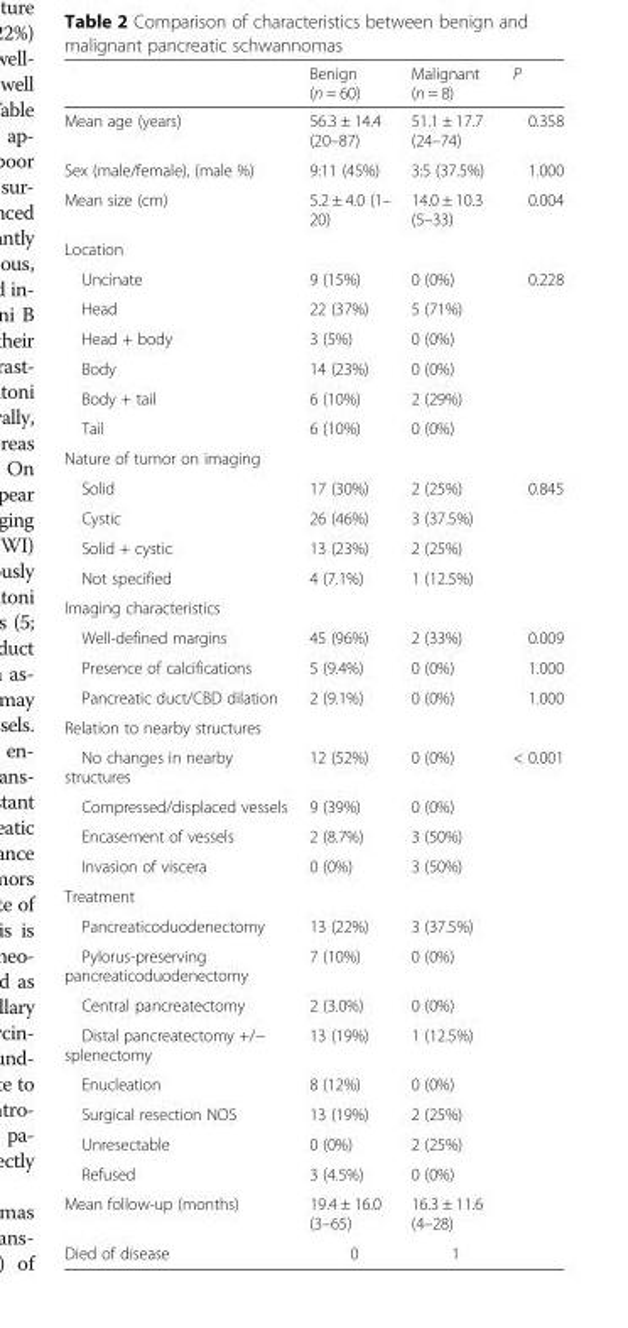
<table><thead><tr><td></td><td>Benign (n = 60)</td><td>Malignant (n = 8)</td><td>P</td></tr></thead><tbody><tr><td>Mean age (years)</td><td>56.3 ± 14.4 (20–87)</td><td>51.1 ± 17.7 (24–74)</td><td>0.358</td></tr><tr><td>Sex (male/female), (male %)</td><td>9:11 (45%)</td><td>3:5 (37.5%)</td><td>1.000</td></tr><tr><td>Mean size (cm)</td><td>5.2 ± 4.0 (1– 20)</td><td>14.0 ± 10.3 (5–33)</td><td>0.004</td></tr><tr><td colspan="4">Location</td></tr><tr><td>Uncinate</td><td>9 (15%)</td><td>0 (0%)</td><td rowspan="6">0.228</td></tr><tr><td>Head</td><td>22 (37%)</td><td>5 (71%)</td></tr><tr><td>Head + body</td><td>3 (5%)</td><td>0 (0%)</td></tr><tr><td>Body</td><td>14 (23%)</td><td>0 (0%)</td></tr><tr><td>Body + tail</td><td>6 (10%)</td><td>2 (29%)</td></tr><tr><td>Tail</td><td>6 (10%)</td><td>0 (0%)</td></tr><tr><td colspan="4">Nature of tumor on imaging</td></tr><tr><td>Solid</td><td>17 (30%)</td><td>2 (25%)</td><td rowspan="4">0.845</td></tr><tr><td>Cystic</td><td>26 (46%)</td><td>3 (37.5%)</td></tr><tr><td>Solid + cystic</td><td>13 (23%)</td><td>2 (25%)</td></tr><tr><td>Not specified</td><td>4 (7.1%)</td><td>1 (12.5%)</td></tr><tr><td colspan="4">Imaging characteristics</td></tr><tr><td>Well-defined margins</td><td>45 (96%)</td><td>2 (33%)</td><td>0.009</td></tr><tr><td>Presence of calcifications</td><td>5 (9.4%)</td><td>0 (0%)</td><td>1.000</td></tr><tr><td>Pancreatic duct/CBD dilation</td><td>2 (9.1%)</td><td>0 (0%)</td><td>1.000</td></tr><tr><td colspan="4">Relation to nearby structures</td></tr><tr><td>No changes in nearby structures</td><td>12 (52%)</td><td>0 (0%)</td><td rowspan="4">&lt; 0.001</td></tr><tr><td>Compressed/displaced vessels</td><td>9 (39%)</td><td>0 (0%)</td></tr><tr><td>Encasement of vessels</td><td>2 (8.7%)</td><td>3 (50%)</td></tr><tr><td>Invasion of viscera</td><td>0 (0%)</td><td>3 (50%)</td></tr><tr><td colspan="4">Treatment</td></tr><tr><td>Pancreaticoduodenectomy</td><td>13 (22%)</td><td>3 (37.5%)</td><td rowspan="8"></td></tr><tr><td>Pylorus-preserving pancreaticoduodenectomy</td><td>7 (10%)</td><td>0 (0%)</td></tr><tr><td>Central pancreatectomy</td><td>2 (3.0%)</td><td>0 (0%)</td></tr><tr><td>Distal pancreatectomy +/− splenectomy</td><td>13 (19%)</td><td>1 (12.5%)</td></tr><tr><td>Enucleation</td><td>8 (12%)</td><td>0 (0%)</td></tr><tr><td>Surgical resection NOS</td><td>13 (19%)</td><td>2 (25%)</td></tr><tr><td>Unresectable</td><td>0 (0%)</td><td>2 (25%)</td></tr><tr><td>Refused</td><td>3 (4.5%)</td><td>0 (0%)</td></tr><tr><td>Mean follow-up (months)</td><td>19.4 ± 16.0 (3–65)</td><td>16.3 ± 11.6 (4–28)</td><td></td></tr><tr><td>Died of disease</td><td>0</td><td>1</td><td></td></tr></tbody></table>